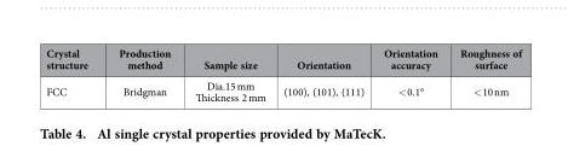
<table><thead><tr><td>Crystal structure</td><td>Production method</td><td>Sample size</td><td>Orientation</td><td>Orientation accuracy</td><td>Roughness of surface</td></tr></thead><tbody><tr><td>FCC</td><td>Bridgman</td><td>Dia.15 mm Thickness 2 mm</td><td>(100), (101), (111)</td><td>&lt; 0.1°</td><td>&lt; 10 nm</td></tr></tbody></table>